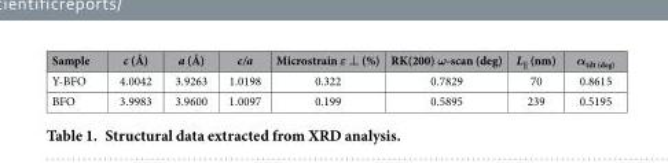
<table><thead><tr><td>Sample</td><td>c (Å)</td><td>a (Å)</td><td>c/a</td><td>Microstrain ε ⊥ (%)</td><td>RK(200) ω-scan (deg)</td><td>L<sub>||</sub> (nm)</td><td>α<sub>tilt (deg)</sub></td></tr></thead><tbody><tr><td>Y-BFO</td><td>4.0042</td><td>3.9263</td><td>1.0198</td><td>0.322</td><td>0.7829</td><td>70</td><td>0.8615</td></tr><tr><td>BFO</td><td>3.9983</td><td>3.9600</td><td>1.0097</td><td>0.199</td><td>0.5895</td><td>239</td><td>0.5195</td></tr></tbody></table>